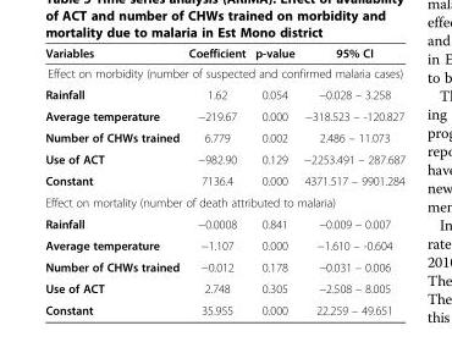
<table><thead><tr><td>Variables</td><td>Coefficient</td><td>p-value</td><td>95% CI</td></tr></thead><tbody><tr><td colspan="4">Effect on morbidity (number of suspected and confirmed malaria cases)</td></tr><tr><td>Rainfall</td><td>1.62</td><td>0.054</td><td>−0.028 – 3.258</td></tr><tr><td>Average temperature</td><td>−219.67</td><td>0.000</td><td>−318.523 – -120.827</td></tr><tr><td>Number of CHWs trained</td><td>6.779</td><td>0.002</td><td>2.486 – 11.073</td></tr><tr><td>Use of ACT</td><td>−982.90</td><td>0.129</td><td>−2253.491 – 287.687</td></tr><tr><td>Constant</td><td>7136.4</td><td>0.000</td><td>4371.517 – 9901.284</td></tr><tr><td colspan="4">Effect on mortality (number of death attributed to malaria)</td></tr><tr><td>Rainfall</td><td>−0.0008</td><td>0.841</td><td>−0.009 – 0.007</td></tr><tr><td>Average temperature</td><td>−1.107</td><td>0.000</td><td>−1.610 – -0.604</td></tr><tr><td>Number of CHWs trained</td><td>−0.012</td><td>0.178</td><td>−0.031 – 0.006</td></tr><tr><td>Use of ACT</td><td>2.748</td><td>0.305</td><td>−2.508 – 8.005</td></tr><tr><td>Constant</td><td>35.955</td><td>0.000</td><td>22.259 – 49.651</td></tr></tbody></table>